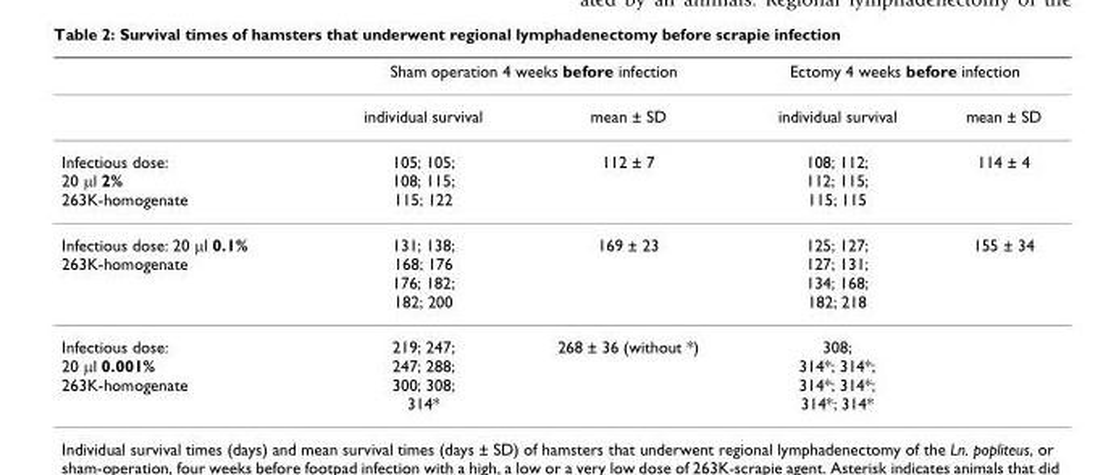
<table><thead><tr><td rowspan="2"></td><td colspan="2">Sham operation 4 weeks before infection</td><td colspan="2">Ectomy 4 weeks before infection</td></tr><tr><td>individual survival</td><td>mean ± SD</td><td>individual survival</td><td>mean ± SD</td></tr></thead><tbody><tr><td>Infectious dose: 20 µl 2% 263K-homogenate</td><td>105; 105; 108; 115; 115; 122</td><td>112 ± 7</td><td>108; 112; 112; 115; 115; 115</td><td>114 ± 4</td></tr><tr><td>Infectious dose: 20 µl 0.1% 263K-homogenate</td><td>131; 138; 168; 176 176; 182; 182; 200</td><td>169 ± 23</td><td>125; 127; 127; 131; 134; 168; 182; 218</td><td>155 ± 34</td></tr><tr><td>Infectious dose: 20 µl 0.001% 263K-homogenate</td><td>219; 247; 247; 288; 300; 308; 314*</td><td>268 ± 36 (without *)</td><td>308; 314*; 314*; 314*; 314*; 314*; 314*</td><td></td></tr></tbody></table>